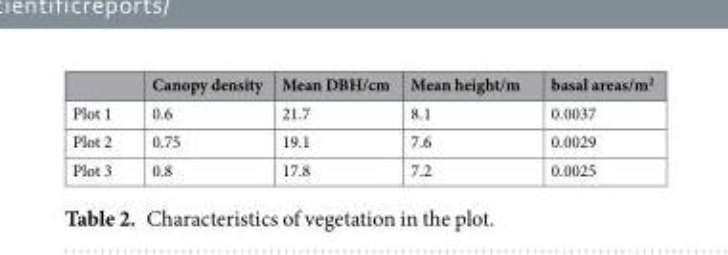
<table><thead><tr><td></td><td>Canopy density</td><td>Mean DBH/cm</td><td>Mean height/m</td><td>basal areas/m<sup>2</sup></td></tr></thead><tbody><tr><td>Plot 1</td><td>0.6</td><td>21.7</td><td>8.1</td><td>0.0037</td></tr><tr><td>Plot 2</td><td>0.75</td><td>19.1</td><td>7.6</td><td>0.0029</td></tr><tr><td>Plot 3</td><td>0.8</td><td>17.8</td><td>7.2</td><td>0.0025</td></tr></tbody></table>